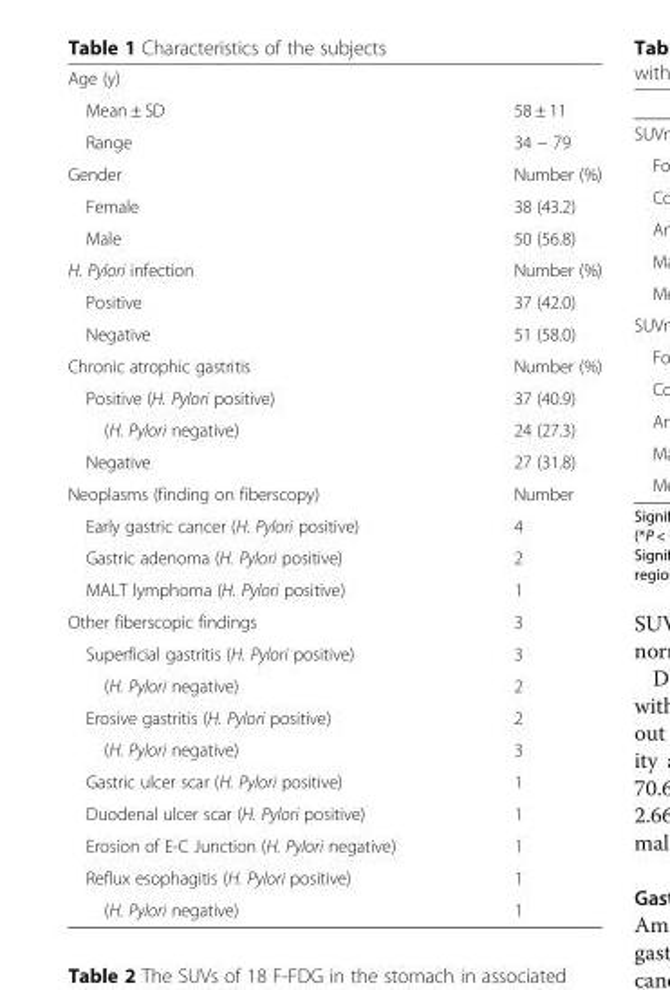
<table><tbody><tr><td colspan="2">Age (y)</td></tr><tr><td>Mean ± SD</td><td>58 ± 11</td></tr><tr><td>Range</td><td>34 − 79</td></tr><tr><td>Gender</td><td>Number (%)</td></tr><tr><td>Female</td><td>38 (43.2)</td></tr><tr><td>Male</td><td>50 (56.8)</td></tr><tr><td>H. Pylori infection</td><td>Number (%)</td></tr><tr><td>Positive</td><td>37 (42.0)</td></tr><tr><td>Negative</td><td>51 (58.0)</td></tr><tr><td>Chronic atrophic gastritis</td><td>Number (%)</td></tr><tr><td>Positive (H. Pylori positive)</td><td>37 (40.9)</td></tr><tr><td>(H. Pylori negative)</td><td>24 (27.3)</td></tr><tr><td>Negative</td><td>27 (31.8)</td></tr><tr><td>Neoplasms (finding on fiberscopy)</td><td>Number</td></tr><tr><td>Early gastric cancer (H. Pylori positive)</td><td>4</td></tr><tr><td>Gastric adenoma (H. Pylori positive)</td><td>2</td></tr><tr><td>MALT lymphoma (H. Pylori positive)</td><td>1</td></tr><tr><td>Other fiberscopic findings</td><td>3</td></tr><tr><td>Superficial gastritis (H. Pylori positive)</td><td>3</td></tr><tr><td>(H. Pylori negative)</td><td>2</td></tr><tr><td>Erosive gastritis (H. Pylori positive)</td><td>2</td></tr><tr><td>(H. Pylori negative)</td><td>3</td></tr><tr><td>Gastric ulcer scar (H. Pylori positive)</td><td>1</td></tr><tr><td>Duodenal ulcer scar (H. Pylori positive)</td><td>1</td></tr><tr><td>Erosion of E-C Junction (H. Pylori negative)</td><td>1</td></tr><tr><td>Reflux esophagitis (H. Pylori positive)</td><td>1</td></tr><tr><td>(H. Pylori negative)</td><td>1</td></tr></tbody></table>